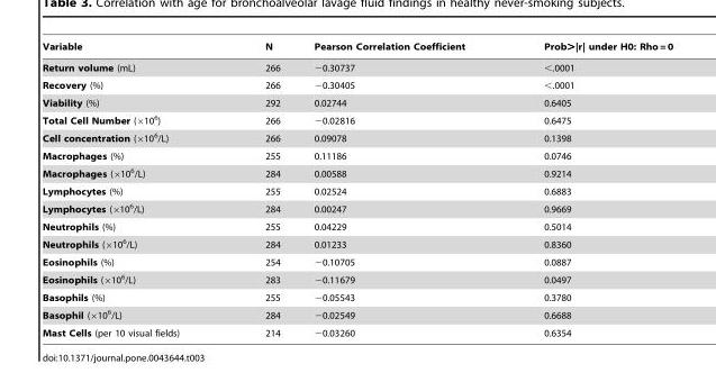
<table><thead><tr><td>Variable</td><td>N</td><td>Pearson Correlation Coefficient</td><td>Prob&gt;|r| under H0: Rho = 0</td></tr></thead><tbody><tr><td>Return volume (mL)</td><td>266</td><td>−0.30737</td><td>&lt;.0001</td></tr><tr><td>Recovery (%)</td><td>266</td><td>−0.30405</td><td>&lt;.0001</td></tr><tr><td>Viability (%)</td><td>292</td><td>0.02744</td><td>0.6405</td></tr><tr><td>Total Cell Number (×10<sup>6</sup>)</td><td>266</td><td>−0.02816</td><td>0.6475</td></tr><tr><td>Cell concentration (×10<sup>6</sup>/L)</td><td>266</td><td>0.09078</td><td>0.1398</td></tr><tr><td>Macrophages (%)</td><td>255</td><td>0.11186</td><td>0.0746</td></tr><tr><td>Macrophages (×10<sup>6</sup>/L)</td><td>284</td><td>0.00588</td><td>0.9214</td></tr><tr><td>Lymphocytes (%)</td><td>255</td><td>0.02524</td><td>0.6883</td></tr><tr><td>Lymphocytes (×10<sup>6</sup>/L)</td><td>284</td><td>0.00247</td><td>0.9669</td></tr><tr><td>Neutrophils (%)</td><td>255</td><td>0.04229</td><td>0.5014</td></tr><tr><td>Neutrophils (×10<sup>6</sup>/L)</td><td>284</td><td>0.01233</td><td>0.8360</td></tr><tr><td>Eosinophils (%)</td><td>254</td><td>−0.10705</td><td>0.0887</td></tr><tr><td>Eosinophils (×10<sup>6</sup>/L)</td><td>283</td><td>−0.11679</td><td>0.0497</td></tr><tr><td>Basophils (%)</td><td>255</td><td>−0.05543</td><td>0.3780</td></tr><tr><td>Basophil (×10<sup>6</sup>/L)</td><td>284</td><td>−0.02549</td><td>0.6688</td></tr><tr><td>Mast Cells (per 10 visual fields)</td><td>214</td><td>−0.03260</td><td>0.6354</td></tr></tbody></table>